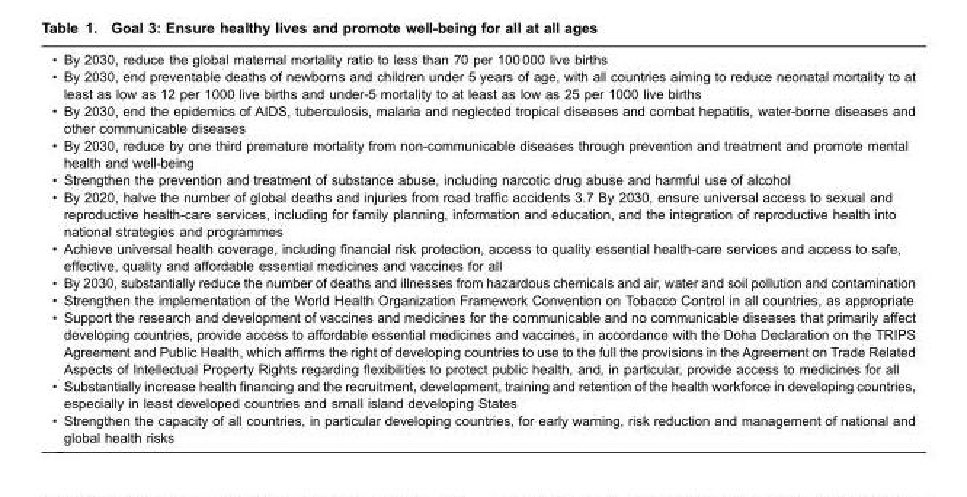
<table><tbody><tr><td>•</td><td>By 2030, reduce the global maternal mortality ratio to less than 70 per 100 000 live births</td></tr><tr><td>•</td><td>By 2030, end preventable deaths of newborns and children under 5 years of age, with all countries aiming to reduce neonatal mortality to at least as low as 12 per 1000 live births and under-5 mortality to at least as low as 25 per 1000 live births</td></tr><tr><td>•</td><td>By 2030, end the epidemics of AIDS, tuberculosis, malaria and neglected tropical diseases and combat hepatitis, water-borne diseases and other communicable diseases</td></tr><tr><td>•</td><td>By 2030, reduce by one third premature mortality from non-communicable diseases through prevention and treatment and promote mental health and well-being</td></tr><tr><td>•</td><td>Strengthen the prevention and treatment of substance abuse, including narcotic drug abuse and harmful use of alcohol</td></tr><tr><td>•</td><td>By 2020, halve the number of global deaths and injuries from road traffic accidents 3.7 By 2030, ensure universal access to sexual and reproductive health-care services, including for family planning, information and education, and the integration of reproductive health into national strategies and programmes</td></tr><tr><td>•</td><td>Achieve universal health coverage, including financial risk protection, access to quality essential health-care services and access to safe, effective, quality and affordable essential medicines and vaccines for all</td></tr><tr><td>•</td><td>By 2030, substantially reduce the number of deaths and illnesses from hazardous chemicals and air, water and soil pollution and contamination</td></tr><tr><td>•</td><td>Strengthen the implementation of the World Health Organization Framework Convention on Tobacco Control in all countries, as appropriate</td></tr><tr><td>•</td><td>Support the research and development of vaccines and medicines for the communicable and no communicable diseases that primarily affect developing countries, provide access to affordable essential medicines and vaccines, in accordance with the Doha Declaration on the TRIPS Agreement and Public Health, which affirms the right of developing countries to use to the full the provisions in the Agreement on Trade Related Aspects of Intellectual Property Rights regarding flexibilities to protect public health, and, in particular, provide access to medicines for all</td></tr><tr><td>•</td><td>Substantially increase health financing and the recruitment, development, training and retention of the health workforce in developing countries, especially in least developed countries and small island developing States</td></tr><tr><td>•</td><td>Strengthen the capacity of all countries, in particular developing countries, for early warning, risk reduction and management of national and global health risks</td></tr></tbody></table>